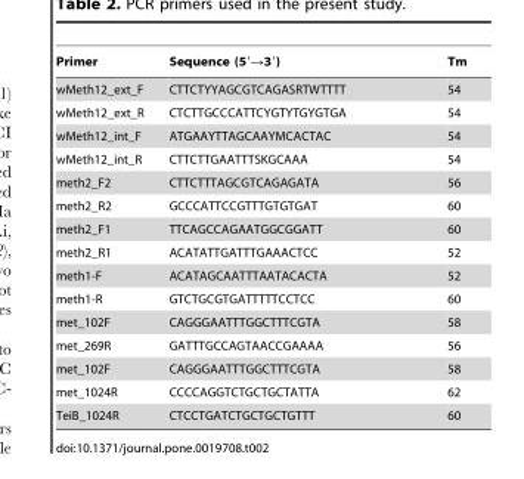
<table><thead><tr><td>Primer</td><td>Sequence (5′→3′)</td><td>Tm</td></tr></thead><tbody><tr><td>wMeth12_ext_F</td><td>CTTCTYYAGCGTCAGASRTWTTTT</td><td>54</td></tr><tr><td>wMeth12_ext_R</td><td>CTCTTGCCCATTCYGTYTGYGTGA</td><td>54</td></tr><tr><td>wMeth12_int_F</td><td>ATGAAYTTAGCAAYMCACTAC</td><td>54</td></tr><tr><td>wMeth12_int_R</td><td>CTTCTTGAATTTSKGCAAA</td><td>54</td></tr><tr><td>meth2_F2</td><td>CTTCTTTAGCGTCAGAGATA</td><td>56</td></tr><tr><td>meth2_R2</td><td>GCCCATTCCGTTTGTGTGAT</td><td>60</td></tr><tr><td>meth2_F1</td><td>TTCAGCCAGAATGGCGGATT</td><td>60</td></tr><tr><td>meth2_R1</td><td>ACATATTGATTTGAAACTCC</td><td>52</td></tr><tr><td>meth1-F</td><td>ACATAGCAATTTAATACACTA</td><td>52</td></tr><tr><td>meth1-R</td><td>GTCTGCGTGATTTTTCCTCC</td><td>60</td></tr><tr><td>met_102F</td><td>CAGGGAATTTGGCTTTCGTA</td><td>58</td></tr><tr><td>met_269R</td><td>GATTTGCCAGTAACCGAAAA</td><td>56</td></tr><tr><td>met_102F</td><td>CAGGGAATTTGGCTTTCGTA</td><td>58</td></tr><tr><td>met_1024R</td><td>CCCCAGGTCTGCTGCTATTA</td><td>62</td></tr><tr><td>TeiB_1024R</td><td>CTCCTGATCTGCTGCTGTTT</td><td>60</td></tr></tbody></table>